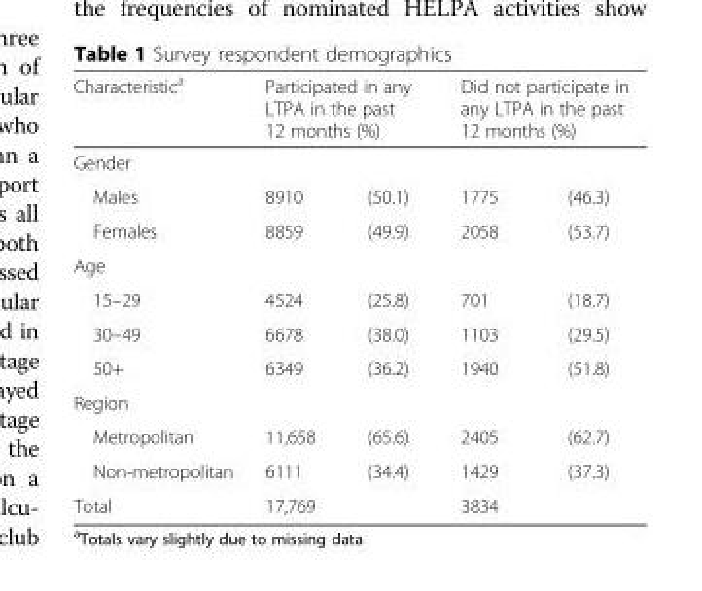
<table><thead><tr><td rowspan="2">Characteristic<sup>a</sup> Gender</td><td colspan="2">Participated in any LTPA in the past 12 months (%)</td><td colspan="2">Did not participate in any LTPA in the past 12 months (%)</td></tr><tr><td></td><td></td><td></td><td></td></tr></thead><tbody><tr><td>Males</td><td>8910</td><td>(50.1)</td><td>1775</td><td>(46.3)</td></tr><tr><td>Females</td><td>8859</td><td>(49.9)</td><td>2058</td><td>(53.7)</td></tr><tr><td colspan="5">Age</td></tr><tr><td>15–29</td><td>4524</td><td>(25.8)</td><td>701</td><td>(18.7)</td></tr><tr><td>30–49</td><td>6678</td><td>(38.0)</td><td>1103</td><td>(29.5)</td></tr><tr><td>50+</td><td>6349</td><td>(36.2)</td><td>1940</td><td>(51.8)</td></tr><tr><td colspan="5">Region</td></tr><tr><td>Metropolitan</td><td>11,658</td><td>(65.6)</td><td>2405</td><td>(62.7)</td></tr><tr><td>Non-metropolitan</td><td>6111</td><td>(34.4)</td><td>1429</td><td>(37.3)</td></tr><tr><td>Total</td><td>17,769</td><td></td><td>3834</td><td></td></tr></tbody></table>